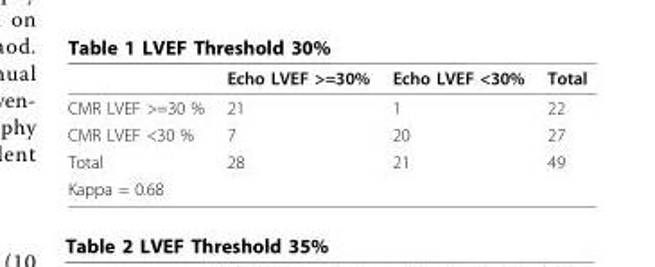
<table><thead><tr><td></td><td>Echo LVEF &gt;=30%</td><td>Echo LVEF &lt;30%</td><td>Total</td></tr></thead><tbody><tr><td>CMR LVEF &gt;=30 %</td><td>21</td><td>1</td><td>22</td></tr><tr><td>CMR LVEF &lt;30 %</td><td>7</td><td>20</td><td>27</td></tr><tr><td>Total</td><td>28</td><td>21</td><td>49</td></tr><tr><td colspan="4">Kappa = 0.68</td></tr></tbody></table>